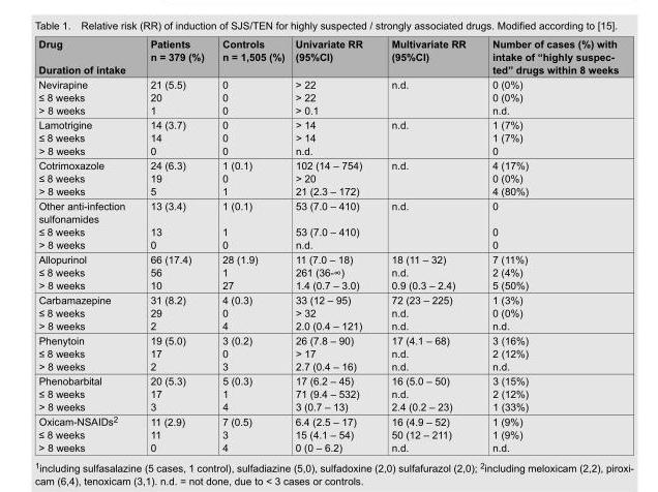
<table><thead><tr><td>Drug Duration of intake</td><td>Patients n = 379 (%)</td><td>Controls n = 1,505 (%)</td><td>Univariate RR (95%CI)</td><td>Multivariate RR (95%CI)</td><td>Number of cases (%) with intake of “highly suspec- ted” drugs within 8 weeks</td></tr></thead><tbody><tr><td>Nevirapine ≤ 8 weeks &gt; 8 weeks</td><td>21 (5.5) 20 1</td><td>0 0 0</td><td>&gt; 22 &gt; 22 &gt; 0.1</td><td>n.d.</td><td>0 (0%) 0 (0%) n.d.</td></tr><tr><td>Lamotrigine ≤ 8 weeks &gt; 8 weeks</td><td>14 (3.7) 14 0</td><td>0 0 0</td><td>&gt; 14 &gt; 14 n.d.</td><td>n.d.</td><td>1 (7%) 1 (7%) 0</td></tr><tr><td>Cotrimoxazole ≤ 8 weeks &gt; 8 weeks</td><td>24 (6.3) 19 5</td><td>1 (0.1) 0 1</td><td>102 (14 – 754) &gt; 20 21 (2.3 – 172)</td><td>n.d.</td><td>4 (17%) 0 (0%) 4 (80%)</td></tr><tr><td>Other anti-infection sulfonamides ≤ 8 weeks &gt; 8 weeks</td><td>13 (3.4) 13 0</td><td>1 (0.1) 1 0</td><td>53 (7.0 – 410) 53 (7.0 – 410) n.d.</td><td>n.d.</td><td>0 0 0</td></tr><tr><td>Allopurinol ≤ 8 weeks &gt; 8 weeks</td><td>66 (17.4) 56 10</td><td>28 (1.9) 1 27</td><td>11 (7.0 – 18) 261 (36-∞) 1.4 (0.7 – 3.0)</td><td>18 (11 – 32) n.d. 0.9 (0.3 – 2.4)</td><td>7 (11%) 2 (4%) 5 (50%)</td></tr><tr><td>Carbamazepine ≤ 8 weeks &gt; 8 weeks</td><td>31 (8.2) 29 2</td><td>4 (0.3) 0 4</td><td>33 (12 – 95) &gt; 32 2.0 (0.4 – 121)</td><td>72 (23 – 225) n.d. n.d.</td><td>1 (3%) 0 (0%) n.d.</td></tr><tr><td>Phenytoin ≤ 8 weeks &gt; 8 weeks</td><td>19 (5.0) 17 2</td><td>3 (0.2) 0 3</td><td>26 (7.8 – 90) &gt; 17 2.7 (0.4 – 16)</td><td>17 (4.1 – 68) n.d. n.d.</td><td>3 (16%) 2 (12%) n.d.</td></tr><tr><td>Phenobarbital ≤ 8 weeks &gt; 8 weeks</td><td>20 (5.3) 17 3</td><td>5 (0.3) 1 4</td><td>17 (6.2 – 45) 71 (9.4 – 532) 3 (0.7 – 13)</td><td>16 (5.0 – 50) n.d. 2.4 (0.2 – 23)</td><td>3 (15%) 2 (12%) 1 (33%)</td></tr><tr><td>Oxicam-NSAIDs<sup>2</sup> ≤ 8 weeks &gt; 8 weeks</td><td>11 (2.9) 11 0</td><td>7 (0.5) 3 4</td><td>6.4 (2.5 – 17) 15 (4.1 – 54) 0 (0 – 6.2)</td><td>16 (4.9 – 52) 50 (12 – 211) n.d.</td><td>1 (9%) 1 (9%) n.d.</td></tr></tbody></table>